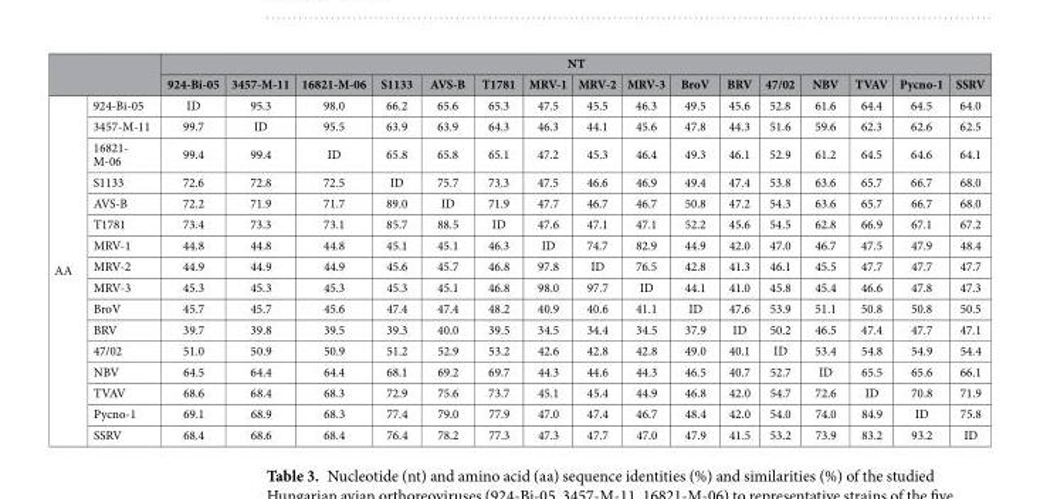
<table><thead><tr><td rowspan="2"></td><td rowspan="2"></td><td colspan="16">NT</td></tr><tr><td>924-Bi-05</td><td>3457-M-11</td><td>16821-M-06</td><td>S1133</td><td>AVS-B</td><td>T1781</td><td>MRV-1</td><td>MRV-2</td><td>MRV-3</td><td>BroV</td><td>BRV</td><td>47/02</td><td>NBV</td><td>TVAV</td><td>Pycno-1</td><td>SSRV</td></tr></thead><tbody><tr><td rowspan="16">AA</td><td>924-Bi-05</td><td>ID</td><td>95.3</td><td>98.0</td><td>66.2</td><td>65.6</td><td>65.3</td><td>47.5</td><td>45.5</td><td>46.3</td><td>49.5</td><td>45.6</td><td>52.8</td><td>61.6</td><td>64.4</td><td>64.5</td><td>64.0</td></tr><tr><td>3457-M-11</td><td>99.7</td><td>ID</td><td>95.5</td><td>63.9</td><td>63.9</td><td>64.3</td><td>46.3</td><td>44.1</td><td>45.6</td><td>47.8</td><td>44.3</td><td>51.6</td><td>59.6</td><td>62.3</td><td>62.6</td><td>62.5</td></tr><tr><td>16821- M-06</td><td>99.4</td><td>99.4</td><td>ID</td><td>65.8</td><td>65.8</td><td>65.1</td><td>47.2</td><td>45.3</td><td>46.4</td><td>49.3</td><td>46.1</td><td>52.9</td><td>61.2</td><td>64.5</td><td>64.6</td><td>64.1</td></tr><tr><td>S1133</td><td>72.6</td><td>72.8</td><td>72.5</td><td>ID</td><td>75.7</td><td>73.3</td><td>47.5</td><td>46.6</td><td>46.9</td><td>49.4</td><td>47.4</td><td>53.8</td><td>63.6</td><td>65.7</td><td>66.7</td><td>68.0</td></tr><tr><td>AVS-B</td><td>72.2</td><td>71.9</td><td>71.7</td><td>89.0</td><td>ID</td><td>71.9</td><td>47.7</td><td>46.7</td><td>46.7</td><td>50.8</td><td>47.2</td><td>54.3</td><td>63.6</td><td>65.7</td><td>66.7</td><td>68.0</td></tr><tr><td>T1781</td><td>73.4</td><td>73.3</td><td>73.1</td><td>85.7</td><td>88.5</td><td>ID</td><td>47.6</td><td>47.1</td><td>47.1</td><td>52.2</td><td>45.6</td><td>54.5</td><td>62.8</td><td>66.9</td><td>67.1</td><td>67.2</td></tr><tr><td>MRV-1</td><td>44.8</td><td>44.8</td><td>44.8</td><td>45.1</td><td>45.1</td><td>46.3</td><td>ID</td><td>74.7</td><td>82.9</td><td>44.9</td><td>42.0</td><td>47.0</td><td>46.7</td><td>47.5</td><td>47.9</td><td>48.4</td></tr><tr><td>MRV-2</td><td>44.9</td><td>44.9</td><td>44.9</td><td>45.6</td><td>45.7</td><td>46.8</td><td>97.8</td><td>ID</td><td>76.5</td><td>42.8</td><td>41.3</td><td>46.1</td><td>45.5</td><td>47.7</td><td>47.7</td><td>47.7</td></tr><tr><td>MRV-3</td><td>45.3</td><td>45.3</td><td>45.3</td><td>45.3</td><td>45.1</td><td>46.8</td><td>98.0</td><td>97.7</td><td>ID</td><td>44.1</td><td>41.0</td><td>45.8</td><td>45.4</td><td>46.6</td><td>47.8</td><td>47.3</td></tr><tr><td>BroV</td><td>45.7</td><td>45.7</td><td>45.6</td><td>47.4</td><td>47.4</td><td>48.2</td><td>40.9</td><td>40.6</td><td>41.1</td><td>ID</td><td>47.6</td><td>53.9</td><td>51.1</td><td>50.8</td><td>50.8</td><td>50.5</td></tr><tr><td>BRV</td><td>39.7</td><td>39.8</td><td>39.5</td><td>39.3</td><td>40.0</td><td>39.5</td><td>34.5</td><td>34.4</td><td>34.5</td><td>37.9</td><td>ID</td><td>50.2</td><td>46.5</td><td>47.4</td><td>47.7</td><td>47.1</td></tr><tr><td>47/02</td><td>51.0</td><td>50.9</td><td>50.9</td><td>51.2</td><td>52.9</td><td>53.2</td><td>42.6</td><td>42.8</td><td>42.8</td><td>49.0</td><td>40.1</td><td>ID</td><td>53.4</td><td>54.8</td><td>54.9</td><td>54.4</td></tr><tr><td>NBV</td><td>64.5</td><td>64.4</td><td>64.4</td><td>68.1</td><td>69.2</td><td>69.7</td><td>44.3</td><td>44.6</td><td>44.3</td><td>46.5</td><td>40.7</td><td>52.7</td><td>ID</td><td>65.5</td><td>65.6</td><td>66.1</td></tr><tr><td>TVAV</td><td>68.6</td><td>68.4</td><td>68.3</td><td>72.9</td><td>75.6</td><td>73.7</td><td>45.1</td><td>45.4</td><td>44.9</td><td>46.8</td><td>42.0</td><td>54.7</td><td>72.6</td><td>ID</td><td>70.8</td><td>71.9</td></tr><tr><td>Pycno-1</td><td>69.1</td><td>68.9</td><td>68.3</td><td>77.4</td><td>79.0</td><td>77.9</td><td>47.0</td><td>47.4</td><td>46.7</td><td>48.4</td><td>42.0</td><td>54.0</td><td>74.0</td><td>84.9</td><td>ID</td><td>75.8</td></tr><tr><td>SSRV</td><td>68.4</td><td>68.6</td><td>68.4</td><td>76.4</td><td>78.2</td><td>77.3</td><td>47.3</td><td>47.7</td><td>47.0</td><td>47.9</td><td>41.5</td><td>53.2</td><td>73.9</td><td>83.2</td><td>93.2</td><td>ID</td></tr></tbody></table>